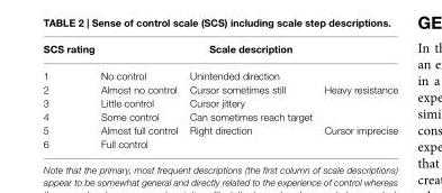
<table><thead><tr><td rowspan="2">SCS rating 1</td><td colspan="3">Scale description</td></tr><tr><td>No control</td><td>Unintended direction</td><td></td></tr></thead><tbody><tr><td>2</td><td>Almost no control</td><td>Cursor sometimes still</td><td>Heavy resistance</td></tr><tr><td>3</td><td>Little control</td><td>Cursor jittery</td><td></td></tr><tr><td>4</td><td>Some control</td><td>Can sometimes reach target</td><td></td></tr><tr><td>5</td><td>Almost full control</td><td>Right direction</td><td>Cursor imprecise</td></tr><tr><td>6</td><td>Full control</td><td></td><td></td></tr></tbody></table>